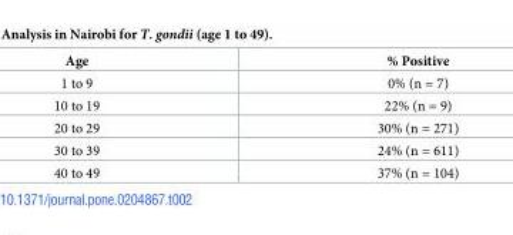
<table><thead><tr><td>Age</td><td>% Positive</td></tr></thead><tbody><tr><td>1 to 9</td><td>0% (n = 7)</td></tr><tr><td>10 to 19</td><td>22% (n = 9)</td></tr><tr><td>20 to 29</td><td>30% (n = 271)</td></tr><tr><td>30 to 39</td><td>24% (n = 611)</td></tr><tr><td>40 to 49</td><td>37% (n = 104)</td></tr></tbody></table>